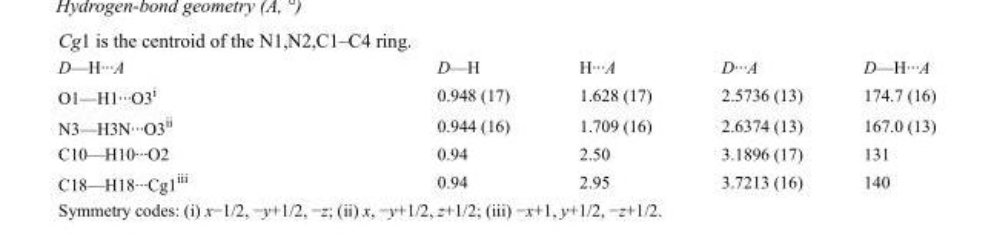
<table><tbody><tr><td>D—H···A</td><td>D—H</td><td>H···A</td><td>D···A</td><td>D—H···A</td></tr><tr><td>O1—H1···O3<sup>i</sup></td><td>0.948 (17)</td><td>1.628 (17)</td><td>2.5736 (13)</td><td>174.7 (16)</td></tr><tr><td>N3—H3N···O3<sup>ii</sup></td><td>0.944 (16)</td><td>1.709 (16)</td><td>2.6374 (13)</td><td>167.0 (13)</td></tr><tr><td>C10—H10···O2</td><td>0.94</td><td>2.50</td><td>3.1896 (17)</td><td>131</td></tr><tr><td>C18—H18···Cg1<sup>iii</sup></td><td>0.94</td><td>2.95</td><td>3.7213 (16)</td><td>140</td></tr></tbody></table>